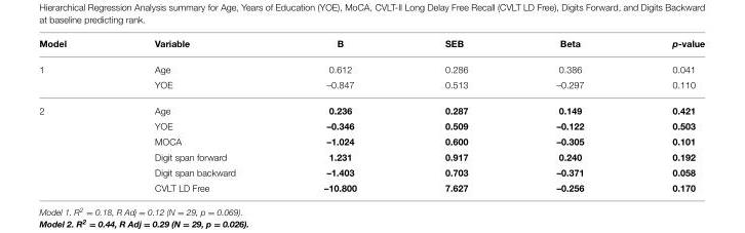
<table><thead><tr><td>Model</td><td>Variable</td><td>B</td><td>SEB</td><td>Beta</td><td>p-value</td></tr></thead><tbody><tr><td rowspan="2">1</td><td>Age</td><td>0.612</td><td>0.286</td><td>0.386</td><td>0.041</td></tr><tr><td>YOE</td><td>–0.847</td><td>0.513</td><td>–0.297</td><td>0.110</td></tr><tr><td rowspan="6">2</td><td>Age</td><td>0.236</td><td>0.287</td><td>0.149</td><td>0.421</td></tr><tr><td>YOE</td><td>–0.346</td><td>0.509</td><td>–0.122</td><td>0.503</td></tr><tr><td>MOCA</td><td>–1.024</td><td>0.600</td><td>–0.305</td><td>0.101</td></tr><tr><td>Digit span forward</td><td>1.231</td><td>0.917</td><td>0.240</td><td>0.192</td></tr><tr><td>Digit span backward</td><td>–1.403</td><td>0.703</td><td>–0.371</td><td>0.058</td></tr><tr><td>CVLT LD Free</td><td>–10.800</td><td>7.627</td><td>–0.256</td><td>0.170</td></tr></tbody></table>